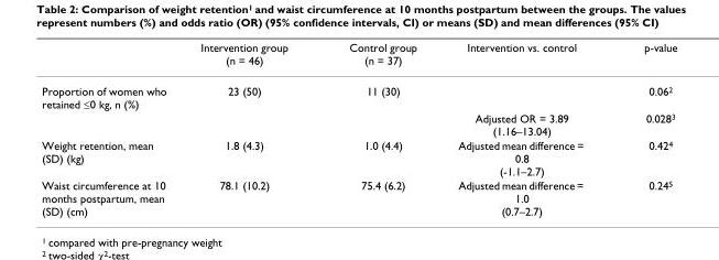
<table><thead><tr><td></td><td>Intervention group (n = 46)</td><td>Control group (n = 37)</td><td>Intervention vs. control</td><td>p-value</td></tr></thead><tbody><tr><td rowspan="2">Proportion of women who retained ≤0 kg, n (%)</td><td>23 (50)</td><td>11 (30)</td><td></td><td>0.06<sup>2</sup></td></tr><tr><td></td><td></td><td>Adjusted OR = 3.89 (1.16–13.04)</td><td>0.028<sup>3</sup></td></tr><tr><td>Weight retention, mean (SD) (kg)</td><td>1.8 (4.3)</td><td>1.0 (4.4)</td><td>Adjusted mean difference = 0.8 (-1.1–2.7)</td><td>0.42<sup>4</sup></td></tr><tr><td>Waist circumference at 10 months postpartum, mean (SD) (cm)</td><td>78.1 (10.2)</td><td>75.4 (6.2)</td><td>Adjusted mean difference = 1.0 (0.7–2.7)</td><td>0.24<sup>5</sup></td></tr></tbody></table>